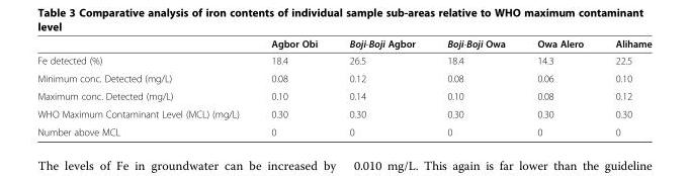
<table><thead><tr><td></td><td>Agbor Obi</td><td>Boji-Boji Agbor</td><td>Boji-Boji Owa</td><td>Owa Alero</td><td>Alihame</td></tr></thead><tbody><tr><td>Fe detected (%)</td><td>18.4</td><td>26.5</td><td>18.4</td><td>14.3</td><td>22.5</td></tr><tr><td>Minimum conc. Detected (mg/L)</td><td>0.08</td><td>0.12</td><td>0.08</td><td>0.06</td><td>0.10</td></tr><tr><td>Maximum conc. Detected (mg/L)</td><td>0.10</td><td>0.14</td><td>0.10</td><td>0.08</td><td>0.12</td></tr><tr><td>WHO Maximum Contaminant Level (MCL) (mg/L)</td><td>0.30</td><td>0.30</td><td>0.30</td><td>0.30</td><td>0.30</td></tr><tr><td>Number above MCL</td><td>0</td><td>0</td><td>0</td><td>0</td><td>0</td></tr></tbody></table>